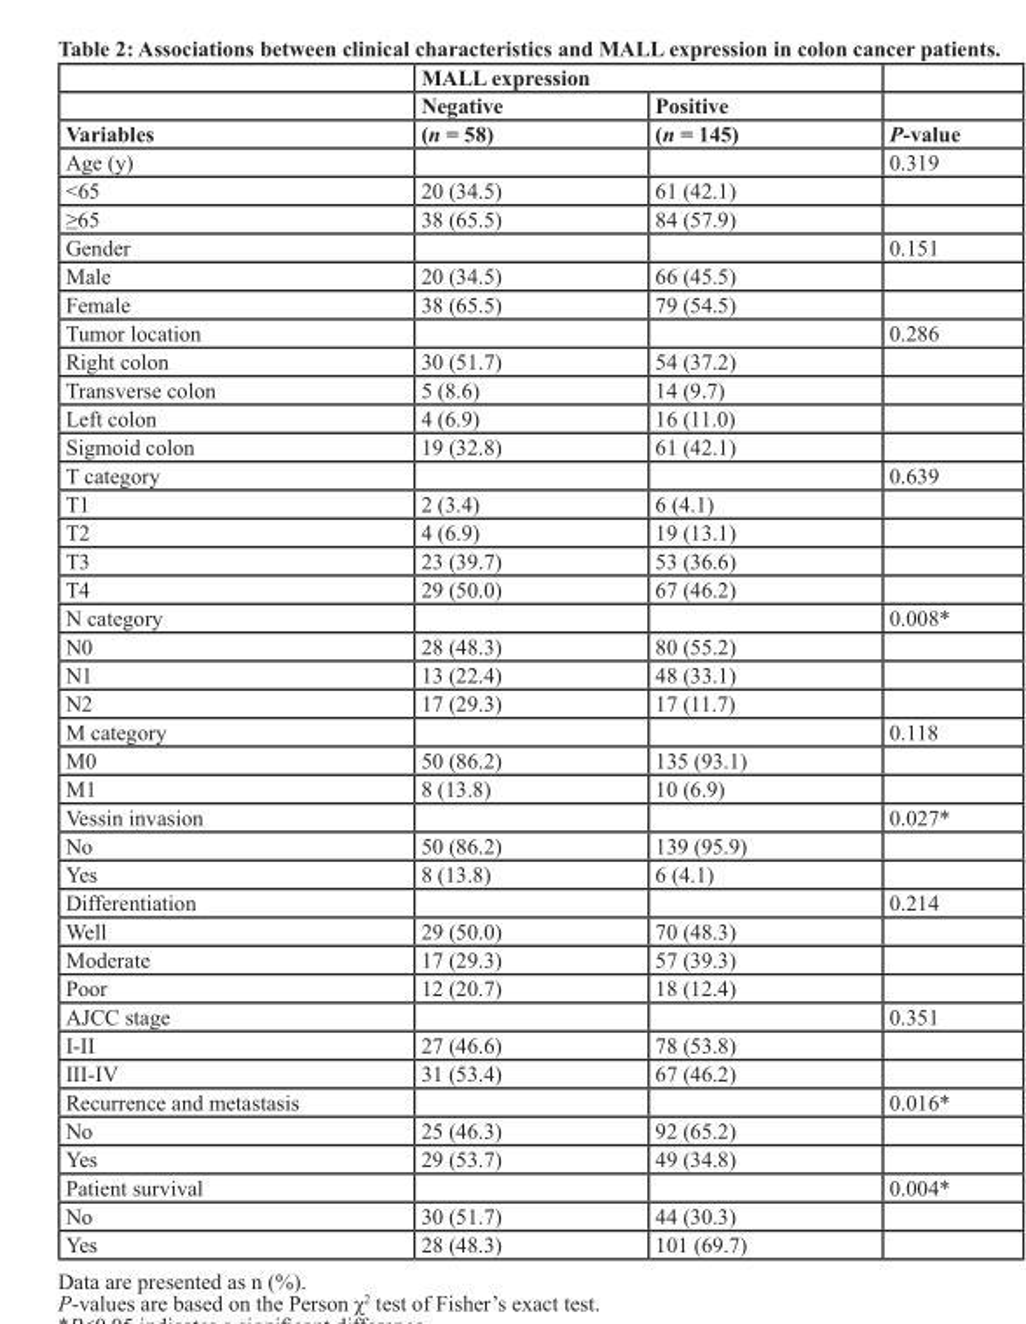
<table><thead><tr><td rowspan="3">Variables</td><td colspan="2">MALL expression</td><td rowspan="3">P-value</td></tr><tr><td rowspan="2">Negative (n = 58)</td><td rowspan="2">Positive (n = 145)</td></tr><tr></tr></thead><tbody><tr><td>Age (y)</td><td></td><td></td><td>0.319</td></tr><tr><td>&lt;65</td><td>20 (34.5)</td><td>61 (42.1)</td><td></td></tr><tr><td>≥65</td><td>38 (65.5)</td><td>84 (57.9)</td><td></td></tr><tr><td>Gender</td><td></td><td></td><td>0.151</td></tr><tr><td>Male</td><td>20 (34.5)</td><td>66 (45.5)</td><td></td></tr><tr><td>Female</td><td>38 (65.5)</td><td>79 (54.5)</td><td></td></tr><tr><td>Tumor location</td><td></td><td></td><td>0.286</td></tr><tr><td>Right colon</td><td>30 (51.7)</td><td>54 (37.2)</td><td></td></tr><tr><td>Transverse colon</td><td>5 (8.6)</td><td>14 (9.7)</td><td></td></tr><tr><td>Left colon</td><td>4 (6.9)</td><td>16 (11.0)</td><td></td></tr><tr><td>Sigmoid colon</td><td>19 (32.8)</td><td>61 (42.1)</td><td></td></tr><tr><td>T category</td><td></td><td></td><td>0.639</td></tr><tr><td>T1</td><td>2 (3.4)</td><td>6 (4.1)</td><td></td></tr><tr><td>T2</td><td>4 (6.9)</td><td>19 (13.1)</td><td></td></tr><tr><td>T3</td><td>23 (39.7)</td><td>53 (36.6)</td><td></td></tr><tr><td>T4</td><td>29 (50.0)</td><td>67 (46.2)</td><td></td></tr><tr><td>N category</td><td></td><td></td><td>0.008*</td></tr><tr><td>N0</td><td>28 (48.3)</td><td>80 (55.2)</td><td></td></tr><tr><td>N1</td><td>13 (22.4)</td><td>48 (33.1)</td><td></td></tr><tr><td>N2</td><td>17 (29.3)</td><td>17 (11.7)</td><td></td></tr><tr><td>M category</td><td></td><td></td><td>0.118</td></tr><tr><td>M0</td><td>50 (86.2)</td><td>135 (93.1)</td><td></td></tr><tr><td>M1</td><td>8 (13.8)</td><td>10 (6.9)</td><td></td></tr><tr><td>Vessin invasion</td><td></td><td></td><td>0.027*</td></tr><tr><td>No</td><td>50 (86.2)</td><td>139 (95.9)</td><td></td></tr><tr><td>Yes</td><td>8 (13.8)</td><td>6 (4.1)</td><td></td></tr><tr><td>Differentiation</td><td></td><td></td><td>0.214</td></tr><tr><td>Well</td><td>29 (50.0)</td><td>70 (48.3)</td><td></td></tr><tr><td>Moderate</td><td>17 (29.3)</td><td>57 (39.3)</td><td></td></tr><tr><td>Poor</td><td>12 (20.7)</td><td>18 (12.4)</td><td></td></tr><tr><td>AJCC stage</td><td></td><td></td><td>0.351</td></tr><tr><td>I-II</td><td>27 (46.6)</td><td>78 (53.8)</td><td></td></tr><tr><td>III-IV</td><td>31 (53.4)</td><td>67 (46.2)</td><td></td></tr><tr><td>Recurrence and metastasis</td><td></td><td></td><td>0.016*</td></tr><tr><td>No</td><td>25 (46.3)</td><td>92 (65.2)</td><td></td></tr><tr><td>Yes</td><td>29 (53.7)</td><td>49 (34.8)</td><td></td></tr><tr><td>Patient survival</td><td></td><td></td><td>0.004*</td></tr><tr><td>No</td><td>30 (51.7)</td><td>44 (30.3)</td><td></td></tr><tr><td>Yes</td><td>28 (48.3)</td><td>101 (69.7)</td><td></td></tr></tbody></table>